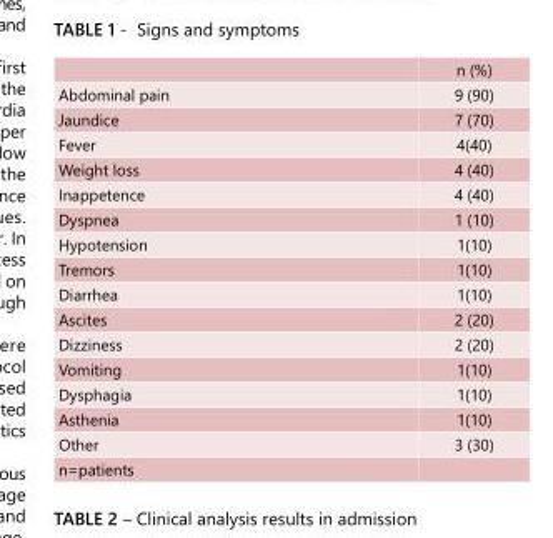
<table><thead><tr><td></td><td>n (%)</td></tr></thead><tbody><tr><td>Abdominal pain</td><td>9 (90)</td></tr><tr><td>Jaundice</td><td>7 (70)</td></tr><tr><td>Fever</td><td>4(40)</td></tr><tr><td>Weight loss</td><td>4 (40)</td></tr><tr><td>Inappetence</td><td>4 (40)</td></tr><tr><td>Dyspnea</td><td>1 (10)</td></tr><tr><td>Hypotension</td><td>1(10)</td></tr><tr><td>Tremors</td><td>1(10)</td></tr><tr><td>Diarrhea</td><td>1(10)</td></tr><tr><td>Ascites</td><td>2 (20)</td></tr><tr><td>Dizziness</td><td>2 (20)</td></tr><tr><td>Vomiting</td><td>1(10)</td></tr><tr><td>Dysphagia</td><td>1(10)</td></tr><tr><td>Asthenia</td><td>1(10)</td></tr><tr><td>Other</td><td>3 (30)</td></tr><tr><td>n=patients</td><td></td></tr></tbody></table>